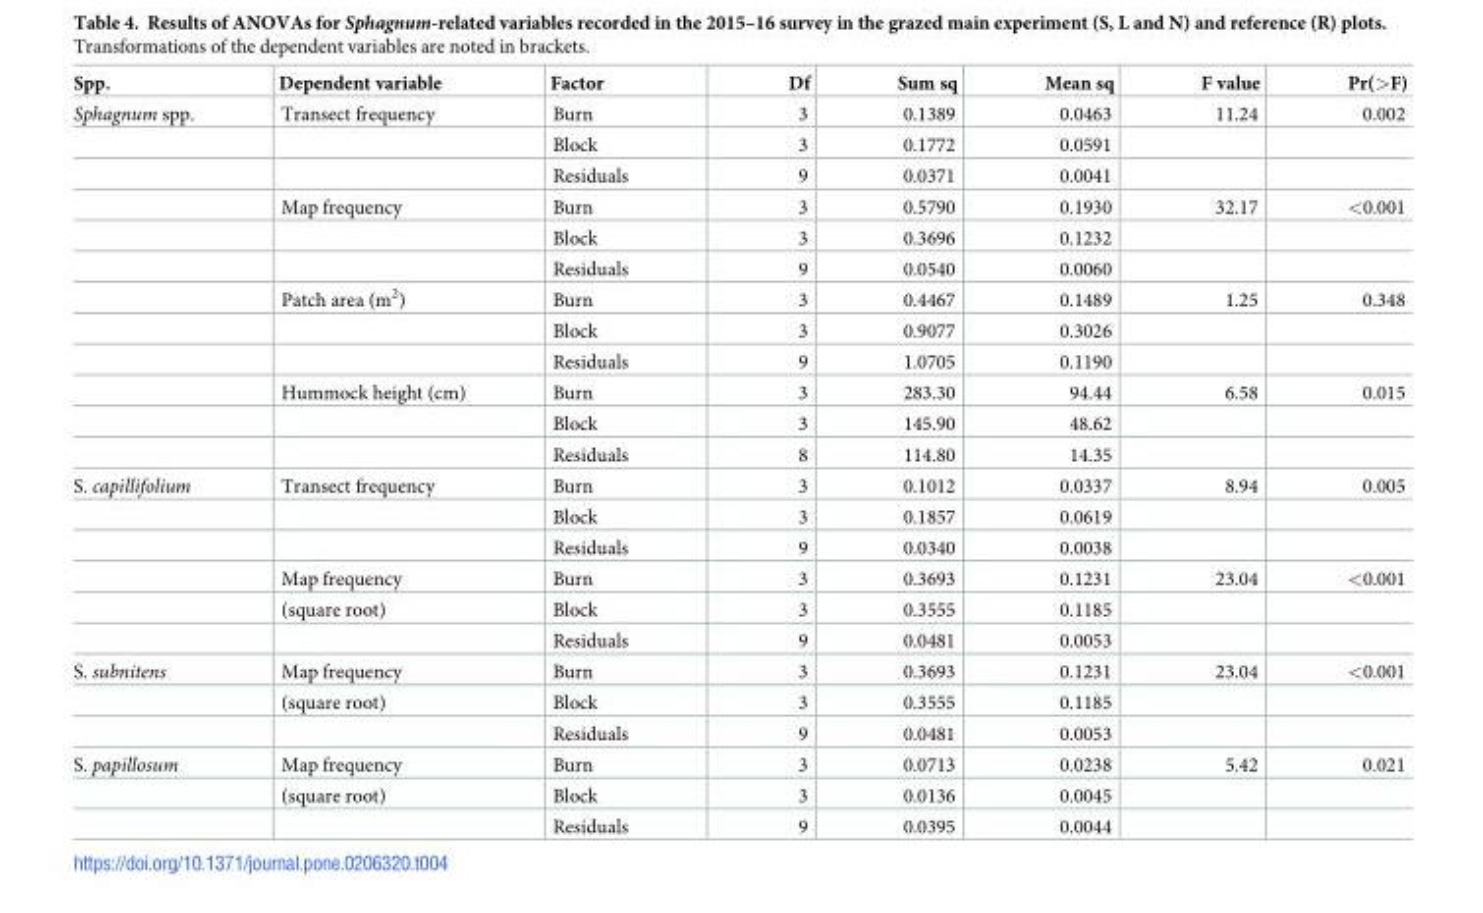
<table><thead><tr><td>Spp.</td><td>Dependent variable</td><td>Factor</td><td>Df</td><td>Sum sq</td><td>Mean sq</td><td>F value</td><td>Pr(&gt;F)</td></tr></thead><tbody><tr><td rowspan="12">Sphagnum spp.</td><td>Transect frequency</td><td>Burn</td><td>3</td><td>0.1389</td><td>0.0463</td><td>11.24</td><td>0.002</td></tr><tr><td></td><td>Block</td><td>3</td><td>0.1772</td><td>0.0591</td><td></td><td></td></tr><tr><td></td><td>Residuals</td><td>9</td><td>0.0371</td><td>0.0041</td><td></td><td></td></tr><tr><td>Map frequency</td><td>Burn</td><td>3</td><td>0.5790</td><td>0.1930</td><td>32.17</td><td>&lt;0.001</td></tr><tr><td></td><td>Block</td><td>3</td><td>0.3696</td><td>0.1232</td><td></td><td></td></tr><tr><td></td><td>Residuals</td><td>9</td><td>0.0540</td><td>0.0060</td><td></td><td></td></tr><tr><td>Patch area (m<sup>2</sup>)</td><td>Burn</td><td>3</td><td>0.4467</td><td>0.1489</td><td>1.25</td><td>0.348</td></tr><tr><td></td><td>Block</td><td>3</td><td>0.9077</td><td>0.3026</td><td></td><td></td></tr><tr><td></td><td>Residuals</td><td>9</td><td>1.0705</td><td>0.1190</td><td></td><td></td></tr><tr><td>Hummock height (cm)</td><td>Burn</td><td>3</td><td>283.30</td><td>94.44</td><td>6.58</td><td>0.015</td></tr><tr><td></td><td>Block</td><td>3</td><td>145.90</td><td>48.62</td><td></td><td></td></tr><tr><td></td><td>Residuals</td><td>8</td><td>114.80</td><td>14.35</td><td></td><td></td></tr><tr><td rowspan="6">S. capillifolium</td><td>Transect frequency</td><td>Burn</td><td>3</td><td>0.1012</td><td>0.0337</td><td>8.94</td><td>0.005</td></tr><tr><td></td><td>Block</td><td>3</td><td>0.1857</td><td>0.0619</td><td></td><td></td></tr><tr><td></td><td>Residuals</td><td>9</td><td>0.0340</td><td>0.0038</td><td></td><td></td></tr><tr><td>Map frequency</td><td>Burn</td><td>3</td><td>0.3693</td><td>0.1231</td><td>23.04</td><td>&lt;0.001</td></tr><tr><td>(square root)</td><td>Block</td><td>3</td><td>0.3555</td><td>0.1185</td><td></td><td></td></tr><tr><td></td><td>Residuals</td><td>9</td><td>0.0481</td><td>0.0053</td><td></td><td></td></tr><tr><td rowspan="3">S. subnitens</td><td>Map frequency</td><td>Burn</td><td>3</td><td>0.3693</td><td>0.1231</td><td>23.04</td><td>&lt;0.001</td></tr><tr><td>(square root)</td><td>Block</td><td>3</td><td>0.3555</td><td>0.1185</td><td></td><td></td></tr><tr><td></td><td>Residuals</td><td>9</td><td>0.0481</td><td>0.0053</td><td></td><td></td></tr><tr><td rowspan="3">S. papillosum</td><td>Map frequency</td><td>Burn</td><td>3</td><td>0.0713</td><td>0.0238</td><td>5.42</td><td>0.021</td></tr><tr><td>(square root)</td><td>Block</td><td>3</td><td>0.0136</td><td>0.0045</td><td></td><td></td></tr><tr><td></td><td>Residuals</td><td>9</td><td>0.0395</td><td>0.0044</td><td></td><td></td></tr></tbody></table>